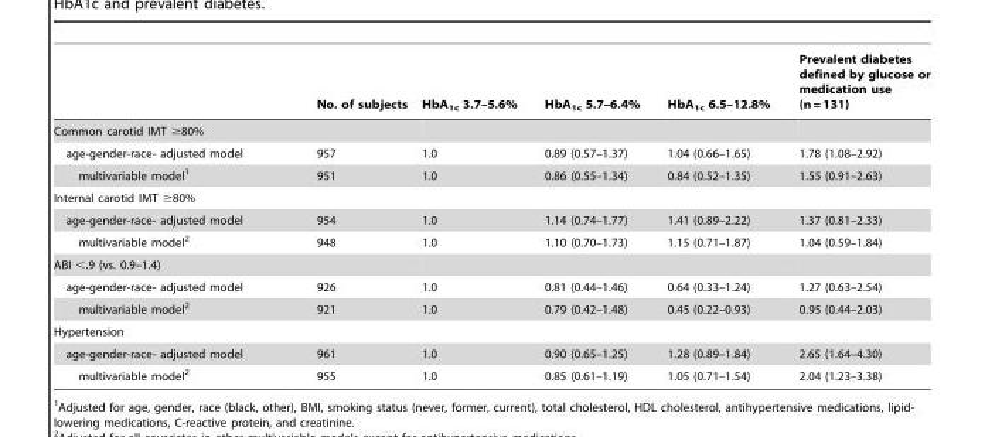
<table><thead><tr><td></td><td>No. of subjects</td><td>HbA<sub>1c</sub> 3.7–5.6%</td><td>HbA<sub>1c</sub> 5.7–6.4%</td><td>HbA<sub>1c</sub> 6.5–12.8%</td><td>Prevalent diabetes defined by glucose or medication use (n = 131)</td></tr></thead><tbody><tr><td colspan="6">Common carotid IMT ≥80%</td></tr><tr><td>age-gender-race- adjusted model</td><td>957</td><td>1.0</td><td>0.89 (0.57–1.37)</td><td>1.04 (0.66–1.65)</td><td>1.78 (1.08–2.92)</td></tr><tr><td>multivariable model<sup>1</sup></td><td>951</td><td>1.0</td><td>0.86 (0.55–1.34)</td><td>0.84 (0.52–1.35)</td><td>1.55 (0.91–2.63)</td></tr><tr><td colspan="6">Internal carotid IMT ≥80%</td></tr><tr><td>age-gender-race- adjusted model</td><td>954</td><td>1.0</td><td>1.14 (0.74–1.77)</td><td>1.41 (0.89–2.22)</td><td>1.37 (0.81–2.33)</td></tr><tr><td>multivariable model<sup>2</sup></td><td>948</td><td>1.0</td><td>1.10 (0.70–1.73)</td><td>1.15 (0.71–1.87)</td><td>1.04 (0.59–1.84)</td></tr><tr><td colspan="6">ABI &lt;.9 (vs. 0.9–1.4)</td></tr><tr><td>age-gender-race- adjusted model</td><td>926</td><td>1.0</td><td>0.81 (0.44–1.46)</td><td>0.64 (0.33–1.24)</td><td>1.27 (0.63–2.54)</td></tr><tr><td>multivariable model<sup>2</sup></td><td>921</td><td>1.0</td><td>0.79 (0.42–1.48)</td><td>0.45 (0.22–0.93)</td><td>0.95 (0.44–2.03)</td></tr><tr><td colspan="6">Hypertension</td></tr><tr><td>age-gender-race- adjusted model</td><td>961</td><td>1.0</td><td>0.90 (0.65–1.25)</td><td>1.28 (0.89–1.84)</td><td>2.65 (1.64–4.30)</td></tr><tr><td>multivariable model<sup>2</sup></td><td>955</td><td>1.0</td><td>0.85 (0.61–1.19)</td><td>1.05 (0.71–1.54)</td><td>2.04 (1.23–3.38)</td></tr></tbody></table>